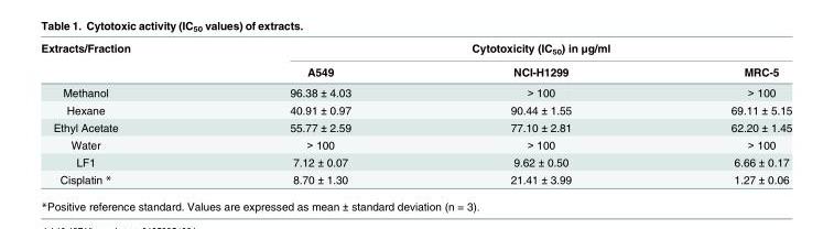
<table><thead><tr><td rowspan="2">Extracts/Fraction</td><td colspan="3">Cytotoxicity (IC<sub>50</sub>) in μg/ml</td></tr><tr><td>A549</td><td>NCI-H1299</td><td>MRC-5</td></tr></thead><tbody><tr><td>Methanol</td><td>96.38 ± 4.03</td><td>&gt; 100</td><td>&gt; 100</td></tr><tr><td>Hexane</td><td>40.91 ± 0.97</td><td>90.44 ± 1.55</td><td>69.11 ± 5.15</td></tr><tr><td>Ethyl Acetate</td><td>55.77 ± 2.59</td><td>77.10 ± 2.81</td><td>62.20 ± 1.45</td></tr><tr><td>Water</td><td>&gt; 100</td><td>&gt; 100</td><td>&gt; 100</td></tr><tr><td>LF1</td><td>7.12 ± 0.07</td><td>9.62 ± 0.50</td><td>6.66 ± 0.17</td></tr><tr><td>Cisplatin *</td><td>8.70 ± 1.30</td><td>21.41 ± 3.99</td><td>1.27 ± 0.06</td></tr></tbody></table>